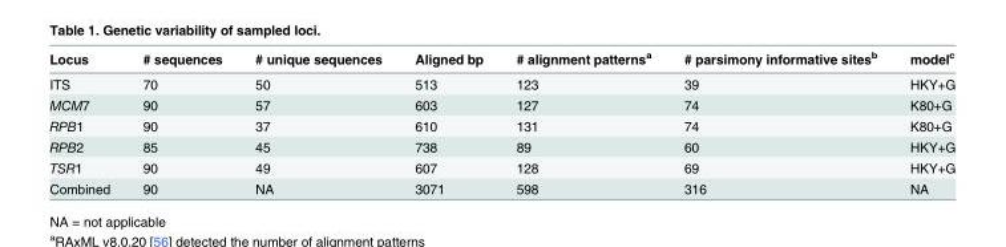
<table><thead><tr><td>Locus</td><td># sequences</td><td># unique sequences</td><td>Aligned bp</td><td># alignment patterns<sup>a</sup></td><td># parsimony informative sites<sup>b</sup></td><td>model<sup>c</sup></td></tr></thead><tbody><tr><td>ITS</td><td>70</td><td>50</td><td>513</td><td>123</td><td>39</td><td>HKY+G</td></tr><tr><td>MCM7</td><td>90</td><td>57</td><td>603</td><td>127</td><td>74</td><td>K80+G</td></tr><tr><td>RPB1</td><td>90</td><td>37</td><td>610</td><td>131</td><td>74</td><td>K80+G</td></tr><tr><td>RPB2</td><td>85</td><td>45</td><td>738</td><td>89</td><td>60</td><td>HKY+G</td></tr><tr><td>TSR1</td><td>90</td><td>49</td><td>607</td><td>128</td><td>69</td><td>HKY+G</td></tr><tr><td>Combined</td><td>90</td><td>NA</td><td>3071</td><td>598</td><td>316</td><td>NA</td></tr></tbody></table>